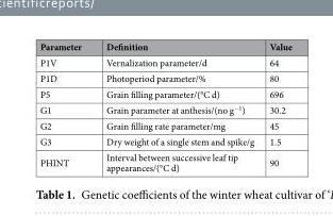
<table><thead><tr><td>Parameter</td><td>Definition</td><td>Value</td></tr></thead><tbody><tr><td>P1V</td><td>Vernalization parameter/d</td><td>64</td></tr><tr><td>P1D</td><td>Photoperiod parameter/%</td><td>80</td></tr><tr><td>P5</td><td>Grain filling parameter/(°C d)</td><td>696</td></tr><tr><td>G1</td><td>Grain parameter at anthesis/(no g<sup>−1</sup>)</td><td>30.2</td></tr><tr><td>G2</td><td>Grain filling rate parameter/mg</td><td>45</td></tr><tr><td>G3</td><td>Dry weight of a single stem and spike/g</td><td>1.5</td></tr><tr><td>PHINT</td><td>Interval between successive leaf tip appearances/(°C d)</td><td>90</td></tr></tbody></table>